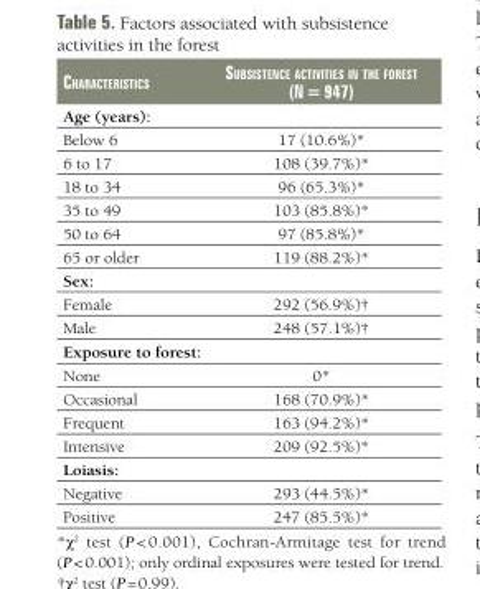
<table><thead><tr><td>characTerisTics</td><td>subsisTeNce acTiviTies iN The foresT (N = 947)</td></tr></thead><tbody><tr><td colspan="2">Age (years):</td></tr><tr><td>Below 6</td><td>17 (10.6%)*</td></tr><tr><td>6 to 17</td><td>108 (39.7%)*</td></tr><tr><td>18 to 34</td><td>96 (65.3%)*</td></tr><tr><td>35 to 49</td><td>103 (85.8%)*</td></tr><tr><td>50 to 64</td><td>97 (85.8%)*</td></tr><tr><td>65 or older</td><td>119 (88.2%)*</td></tr><tr><td colspan="2">Sex:</td></tr><tr><td>Female</td><td>292 (56.9%)†</td></tr><tr><td>Male</td><td>248 (57.1%)†</td></tr><tr><td colspan="2">Exposure to forest:</td></tr><tr><td>None</td><td>0*</td></tr><tr><td>Occasional</td><td>168 (70.9%)*</td></tr><tr><td>Frequent</td><td>163 (94.2%)*</td></tr><tr><td>Intensive</td><td>209 (92.5%)*</td></tr><tr><td colspan="2">Loiasis:</td></tr><tr><td>Negative</td><td>293 (44.5%)*</td></tr><tr><td>Positive</td><td>247 (85.5%)*</td></tr></tbody></table>